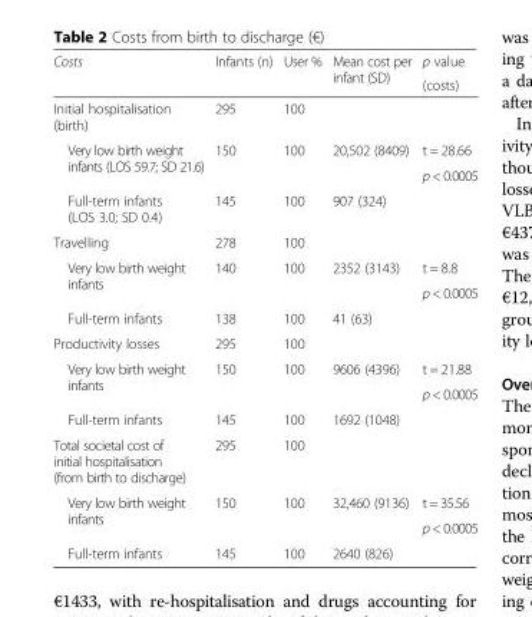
<table><thead><tr><td rowspan="2">Costs</td><td rowspan="2">Infants (n)</td><td rowspan="2">User %</td><td rowspan="2">Mean cost per infant (SD)</td><td rowspan="2">p value (costs)</td></tr><tr></tr></thead><tbody><tr><td>Initial hospitalisation (birth)</td><td>295</td><td>100</td><td></td><td></td></tr><tr><td rowspan="2">Very low birth weight infants (LOS 59.7; SD 21.6)</td><td rowspan="2">150</td><td rowspan="2">100</td><td rowspan="2">20,502 (8409)</td><td>t = 28.66</td></tr><tr><td>p &lt; 0.0005</td></tr><tr><td>Full-term infants (LOS 3.0; SD 0.4)</td><td>145</td><td>100</td><td>907 (324)</td><td></td></tr><tr><td>Travelling</td><td>278</td><td>100</td><td></td><td></td></tr><tr><td rowspan="2">Very low birth weight infants</td><td rowspan="2">140</td><td rowspan="2">100</td><td rowspan="2">2352 (3143)</td><td>t = 8.8</td></tr><tr><td>p &lt; 0.0005</td></tr><tr><td>Full-term infants</td><td>138</td><td>100</td><td>41 (63)</td><td></td></tr><tr><td>Productivity losses</td><td>295</td><td>100</td><td></td><td></td></tr><tr><td rowspan="2">Very low birth weight infants</td><td rowspan="2">150</td><td rowspan="2">100</td><td rowspan="2">9606 (4396)</td><td>t = 21.88</td></tr><tr><td>p &lt; 0.0005</td></tr><tr><td>Full-term infants</td><td>145</td><td>100</td><td>1692 (1048)</td><td></td></tr><tr><td>Total societal cost of initial hospitalisation (from birth to discharge)</td><td>295</td><td>100</td><td></td><td></td></tr><tr><td rowspan="2">Very low birth weight infants</td><td rowspan="2">150</td><td rowspan="2">100</td><td rowspan="2">32,460 (9136)</td><td>t = 35.56</td></tr><tr><td>p &lt; 0.0005</td></tr><tr><td>Full-term infants</td><td>145</td><td>100</td><td>2640 (826)</td><td></td></tr></tbody></table>